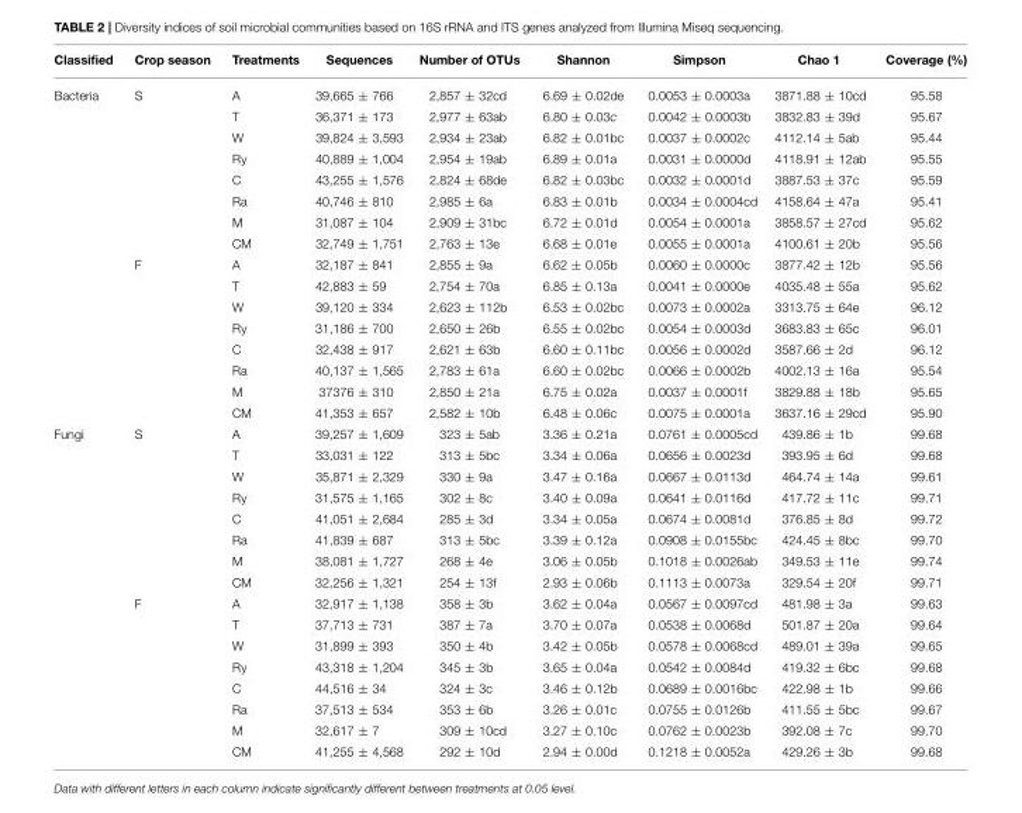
<table><thead><tr><td>Classified</td><td>Crop season</td><td>Treatments</td><td>Sequences</td><td>Number of OTUs</td><td>Shannon</td><td>Simpson</td><td>Chao 1</td><td>Coverage (%)</td></tr></thead><tbody><tr><td rowspan="16">Bacteria</td><td>S</td><td>A</td><td>39,665 ± 766</td><td>2,857 ± 32cd</td><td>6.69 ± 0.02de</td><td>0.0053 ± 0.0003a</td><td>3871.88 ± 10cd</td><td>95.58</td></tr><tr><td></td><td>T</td><td>36,371 ± 173</td><td>2,977 ± 63ab</td><td>6.80 ± 0.03c</td><td>0.0042 ± 0.0003b</td><td>3832.83 ± 39d</td><td>95.67</td></tr><tr><td></td><td>W</td><td>39,824 ± 3,593</td><td>2,934 ± 23ab</td><td>6.82 ± 0.01bc</td><td>0.0037 ± 0.0002c</td><td>4112.14 ± 5ab</td><td>95.44</td></tr><tr><td></td><td>Ry</td><td>40,889 ± 1,004</td><td>2,954 ± 19ab</td><td>6.89 ± 0.01a</td><td>0.0031 ± 0.0000d</td><td>4118.91 ± 12ab</td><td>95.55</td></tr><tr><td></td><td>C</td><td>43,255 ± 1,576</td><td>2,824 ± 68de</td><td>6.82 ± 0.03bc</td><td>0.0032 ± 0.0001d</td><td>3887.53 ± 37c</td><td>95.59</td></tr><tr><td></td><td>Ra</td><td>40,746 ± 810</td><td>2,985 ± 6a</td><td>6.83 ± 0.01b</td><td>0.0034 ± 0.0004cd</td><td>4158.64 ± 47a</td><td>95.41</td></tr><tr><td></td><td>M</td><td>31,087 ± 104</td><td>2,909 ± 31bc</td><td>6.72 ± 0.01d</td><td>0.0054 ± 0.0001a</td><td>3858.57 ± 27cd</td><td>95.62</td></tr><tr><td></td><td>CM</td><td>32,749 ± 1,751</td><td>2,763 ± 13e</td><td>6.68 ± 0.01e</td><td>0.0055 ± 0.0001a</td><td>4100.61 ± 20b</td><td>95.56</td></tr><tr><td>F</td><td>A</td><td>32,187 ± 841</td><td>2,855 ± 9a</td><td>6.62 ± 0.05b</td><td>0.0060 ± 0.0000c</td><td>3877.42 ± 12b</td><td>95.56</td></tr><tr><td></td><td>T</td><td>42,883 ± 59</td><td>2,754 ± 70a</td><td>6.85 ± 0.13a</td><td>0.0041 ± 0.0000e</td><td>4035.48 ± 55a</td><td>95.62</td></tr><tr><td></td><td>W</td><td>39,120 ± 334</td><td>2,623 ± 112b</td><td>6.53 ± 0.02bc</td><td>0.0073 ± 0.0002a</td><td>3313.75 ± 64e</td><td>96.12</td></tr><tr><td></td><td>Ry</td><td>31,186 ± 700</td><td>2,650 ± 26b</td><td>6.55 ± 0.02bc</td><td>0.0054 ± 0.0003d</td><td>3683.83 ± 65c</td><td>96.01</td></tr><tr><td></td><td>C</td><td>32,438 ± 917</td><td>2,621 ± 63b</td><td>6.60 ± 0.11bc</td><td>0.0056 ± 0.0002d</td><td>3587.66 ± 2d</td><td>96.12</td></tr><tr><td></td><td>Ra</td><td>40,137 ± 1,565</td><td>2,783 ± 61a</td><td>6.60 ± 0.02bc</td><td>0.0066 ± 0.0002b</td><td>4002.13 ± 16a</td><td>95.54</td></tr><tr><td></td><td>M</td><td>37376 ± 310</td><td>2,850 ± 21a</td><td>6.75 ± 0.02a</td><td>0.0037 ± 0.0001f</td><td>3829.88 ± 18b</td><td>95.65</td></tr><tr><td></td><td>CM</td><td>41,353 ± 657</td><td>2,582 ± 10b</td><td>6.48 ± 0.06c</td><td>0.0075 ± 0.0001a</td><td>3637.16 ± 29cd</td><td>95.90</td></tr><tr><td rowspan="16">Fungi</td><td>S</td><td>A</td><td>39,257 ± 1,609</td><td>323 ± 5ab</td><td>3.36 ± 0.21a</td><td>0.0761 ± 0.0005cd</td><td>439.86 ± 1b</td><td>99.68</td></tr><tr><td></td><td>T</td><td>33,031 ± 122</td><td>313 ± 5bc</td><td>3.34 ± 0.06a</td><td>0.0656 ± 0.0023d</td><td>393.95 ± 6d</td><td>99.68</td></tr><tr><td></td><td>W</td><td>35,871 ± 2,329</td><td>330 ± 9a</td><td>3.47 ± 0.16a</td><td>0.0667 ± 0.0113d</td><td>464.74 ± 14a</td><td>99.61</td></tr><tr><td></td><td>Ry</td><td>31,575 ± 1,165</td><td>302 ± 8c</td><td>3.40 ± 0.09a</td><td>0.0641 ± 0.0116d</td><td>417.72 ± 11c</td><td>99.71</td></tr><tr><td></td><td>C</td><td>41,051 ± 2,684</td><td>285 ± 3d</td><td>3.34 ± 0.05a</td><td>0.0674 ± 0.0081d</td><td>376.85 ± 8d</td><td>99.72</td></tr><tr><td></td><td>Ra</td><td>41,839 ± 687</td><td>313 ± 5bc</td><td>3.39 ± 0.12a</td><td>0.0908 ± 0.0155bc</td><td>424.45 ± 8bc</td><td>99.70</td></tr><tr><td></td><td>M</td><td>38,081 ± 1,727</td><td>268 ± 4e</td><td>3.06 ± 0.05b</td><td>0.1018 ± 0.0026ab</td><td>349.53 ± 11e</td><td>99.74</td></tr><tr><td></td><td>CM</td><td>32,256 ± 1,321</td><td>254 ± 13f</td><td>2.93 ± 0.06b</td><td>0.1113 ± 0.0073a</td><td>329.54 ± 20f</td><td>99.71</td></tr><tr><td>F</td><td>A</td><td>32,917 ± 1,138</td><td>358 ± 3b</td><td>3.62 ± 0.04a</td><td>0.0567 ± 0.0097cd</td><td>481.98 ± 3a</td><td>99.63</td></tr><tr><td></td><td>T</td><td>37,713 ± 731</td><td>387 ± 7a</td><td>3.70 ± 0.07a</td><td>0.0538 ± 0.0068d</td><td>501.87 ± 20a</td><td>99.64</td></tr><tr><td></td><td>W</td><td>31,899 ± 393</td><td>350 ± 4b</td><td>3.42 ± 0.05b</td><td>0.0578 ± 0.0068cd</td><td>489.01 ± 39a</td><td>99.65</td></tr><tr><td></td><td>Ry</td><td>43,318 ± 1,204</td><td>345 ± 3b</td><td>3.65 ± 0.04a</td><td>0.0542 ± 0.0084d</td><td>419.32 ± 6bc</td><td>99.68</td></tr><tr><td></td><td>C</td><td>44,516 ± 34</td><td>324 ± 3c</td><td>3.46 ± 0.12b</td><td>0.0689 ± 0.0016bc</td><td>422.98 ± 1b</td><td>99.66</td></tr><tr><td></td><td>Ra</td><td>37,513 ± 534</td><td>353 ± 6b</td><td>3.26 ± 0.01c</td><td>0.0755 ± 0.0126b</td><td>411.55 ± 5bc</td><td>99.67</td></tr><tr><td></td><td>M</td><td>32,617 ± 7</td><td>309 ± 10cd</td><td>3.27 ± 0.10c</td><td>0.0762 ± 0.0023b</td><td>392.08 ± 7c</td><td>99.70</td></tr><tr><td></td><td>CM</td><td>41,255 ± 4,568</td><td>292 ± 10d</td><td>2.94 ± 0.00d</td><td>0.1218 ± 0.0052a</td><td>429.26 ± 3b</td><td>99.68</td></tr></tbody></table>